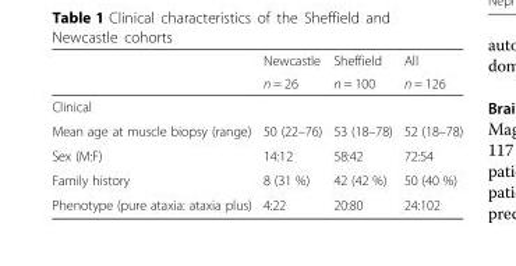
<table><thead><tr><td rowspan="2"></td><td rowspan="2">Newcastle n = 26</td><td rowspan="2">Sheffield n = 100</td><td rowspan="2">All n = 126</td></tr><tr></tr></thead><tbody><tr><td colspan="4">Clinical</td></tr><tr><td>Mean age at muscle biopsy (range)</td><td>50 (22–76)</td><td>53 (18–78)</td><td>52 (18–78)</td></tr><tr><td>Sex (M:F)</td><td>14:12</td><td>58:42</td><td>72:54</td></tr><tr><td>Family history</td><td>8 (31 %)</td><td>42 (42 %)</td><td>50 (40 %)</td></tr><tr><td>Phenotype (pure ataxia: ataxia plus)</td><td>4:22</td><td>20:80</td><td>24:102</td></tr></tbody></table>